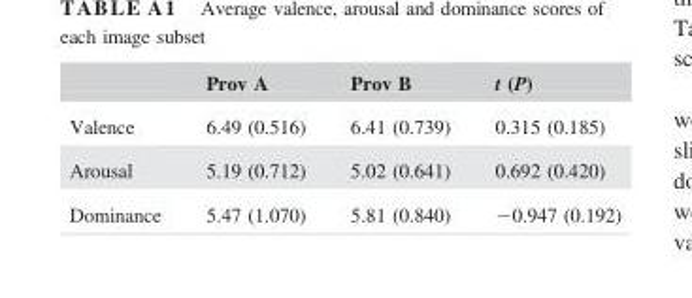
<table><thead><tr><td></td><td>Prov A</td><td>Prov B</td><td>t (P)</td></tr></thead><tbody><tr><td>Valence</td><td>6.49 (0.516)</td><td>6.41 (0.739)</td><td>0.315 (0.185)</td></tr><tr><td>Arousal</td><td>5.19 (0.712)</td><td>5.02 (0.641)</td><td>0.692 (0.420)</td></tr><tr><td>Dominance</td><td>5.47 (1.070)</td><td>5.81 (0.840)</td><td>−0.947 (0.192)</td></tr></tbody></table>